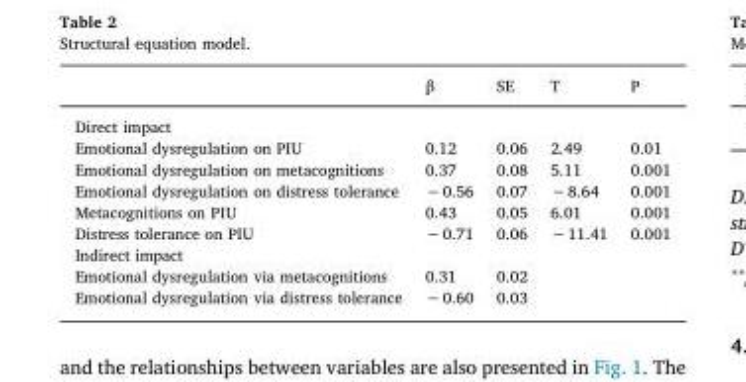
<table><thead><tr><td></td><td>β</td><td>SE</td><td>T</td><td>P</td></tr></thead><tbody><tr><td colspan="5">Direct impact</td></tr><tr><td>Emotional dysregulation on PIU</td><td>0.12</td><td>0.06</td><td>2.49</td><td>0.01</td></tr><tr><td>Emotional dysregulation on metacognitions</td><td>0.37</td><td>0.08</td><td>5.11</td><td>0.001</td></tr><tr><td>Emotional dysregulation on distress tolerance</td><td>−0.56</td><td>0.07</td><td>−8.64</td><td>0.001</td></tr><tr><td>Metacognitions on PIU</td><td>0.43</td><td>0.05</td><td>6.01</td><td>0.001</td></tr><tr><td>Distress tolerance on PIU</td><td>−0.71</td><td>0.06</td><td>−11.41</td><td>0.001</td></tr><tr><td colspan="5">Indirect impact</td></tr><tr><td>Emotional dysregulation via metacognitions</td><td>0.31</td><td>0.02</td><td></td><td></td></tr><tr><td>Emotional dysregulation via distress tolerance</td><td>−0.60</td><td>0.03</td><td></td><td></td></tr></tbody></table>